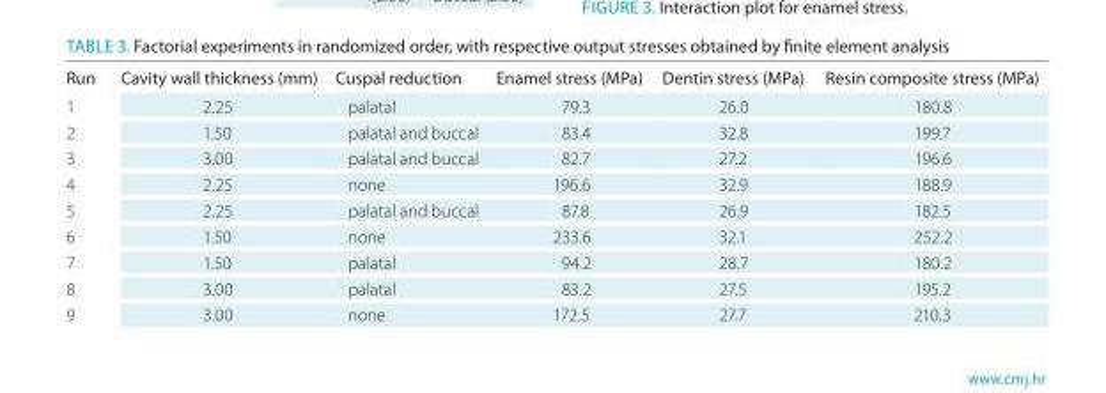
<table><thead><tr><td>run</td><td>Cavity wall thickness (mm)</td><td>Cuspal reduction</td><td>enamel stress (MPa)</td><td>Dentin stress (MPa)</td><td>resin composite stress (MPa)</td></tr></thead><tbody><tr><td>1</td><td>2.25</td><td>palatal</td><td>79.3</td><td>26.0</td><td>180.8</td></tr><tr><td>2</td><td>1.50</td><td>palatal and buccal</td><td>83.4</td><td>32.8</td><td>199.7</td></tr><tr><td>3</td><td>3.00</td><td>palatal and buccal</td><td>82.7</td><td>27.2</td><td>196.6</td></tr><tr><td>4</td><td>2.25</td><td>none</td><td>196.6</td><td>32.9</td><td>188.9</td></tr><tr><td>5</td><td>2.25</td><td>palatal and buccal</td><td>87.8</td><td>26.9</td><td>182.5</td></tr><tr><td>6</td><td>1.50</td><td>none</td><td>233.6</td><td>32.1</td><td>252.2</td></tr><tr><td>7</td><td>1.50</td><td>palatal</td><td>94.2</td><td>28.7</td><td>180.2</td></tr><tr><td>8</td><td>3.00</td><td>palatal</td><td>83.2</td><td>27.5</td><td>195.2</td></tr><tr><td>9</td><td>3.00</td><td>none</td><td>172.5</td><td>27.7</td><td>210.3</td></tr></tbody></table>